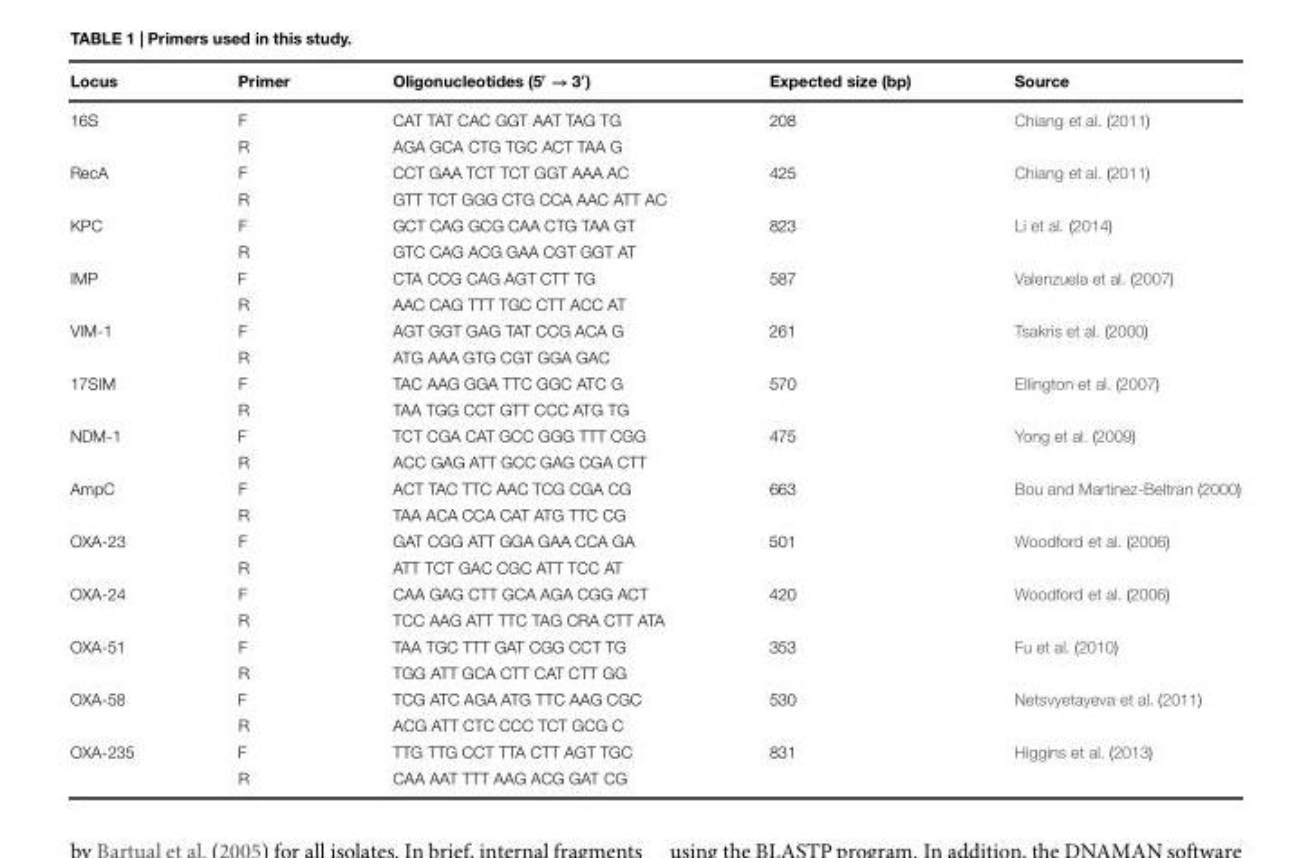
<table><thead><tr><td>Locus</td><td>Primer</td><td>Oligonucleotides (5′ → 3′)</td><td>Expected size (bp)</td><td>Source</td></tr></thead><tbody><tr><td rowspan="2">16S</td><td>F</td><td>CAT TAT CAC GGT AAT TAG TG</td><td>208</td><td>Chiang et al. (2011)</td></tr><tr><td>R</td><td>AGA GCA CTG TGC ACT TAA G</td><td></td><td></td></tr><tr><td rowspan="2">RecA</td><td>F</td><td>CCT GAA TCT TCT GGT AAA AC</td><td>425</td><td>Chiang et al. (2011)</td></tr><tr><td>R</td><td>GTT TCT GGG CTG CCA AAC ATT AC</td><td></td><td></td></tr><tr><td rowspan="2">KPC</td><td>F</td><td>GCT CAG GCG CAA CTG TAA GT</td><td>823</td><td>Li et al. (2014)</td></tr><tr><td>R</td><td>GTC CAG ACG GAA CGT GGT AT</td><td></td><td></td></tr><tr><td rowspan="2">IMP</td><td>F</td><td>CTA CCG CAG AGT CTT TG</td><td>587</td><td>Valenzuela et al. (2007)</td></tr><tr><td>R</td><td>AAC CAG TTT TGC CTT ACC AT</td><td></td><td></td></tr><tr><td rowspan="2">VIM-1</td><td>F</td><td>AGT GGT GAG TAT CCG ACA G</td><td>261</td><td>Tsakris et al. (2000)</td></tr><tr><td>R</td><td>ATG AAA GTG CGT GGA GAC</td><td></td><td></td></tr><tr><td rowspan="2">17SIM</td><td>F</td><td>TAC AAG GGA TTC GGC ATC G</td><td>570</td><td>Ellington et al. (2007)</td></tr><tr><td>R</td><td>TAA TGG CCT GTT CCC ATG TG</td><td></td><td></td></tr><tr><td rowspan="2">NDM-1</td><td>F</td><td>TCT CGA CAT GCC GGG TTT CGG</td><td>475</td><td>Yong et al. (2009)</td></tr><tr><td>R</td><td>ACC GAG ATT GCC GAG CGA CTT</td><td></td><td></td></tr><tr><td rowspan="2">AmpC</td><td>F</td><td>ACT TAC TTC AAC TCG CGA CG</td><td>663</td><td>Bou and Martinez-Beltran (2000)</td></tr><tr><td>R</td><td>TAA ACA CCA CAT ATG TTC CG</td><td></td><td></td></tr><tr><td rowspan="2">OXA-23</td><td>F</td><td>GAT CGG ATT GGA GAA CCA GA</td><td>501</td><td>Woodford et al. (2006)</td></tr><tr><td>R</td><td>ATT TCT GAC CGC ATT TCC AT</td><td></td><td></td></tr><tr><td rowspan="2">OXA-24</td><td>F</td><td>CAA GAG CTT GCA AGA CGG ACT</td><td>420</td><td>Woodford et al. (2006)</td></tr><tr><td>R</td><td>TCC AAG ATT TTC TAG CRA CTT ATA</td><td></td><td></td></tr><tr><td rowspan="2">OXA-51</td><td>F</td><td>TAA TGC TTT GAT CGG CCT TG</td><td>353</td><td>Fu et al. (2010)</td></tr><tr><td>R</td><td>TGG ATT GCA CTT CAT CTT GG</td><td></td><td></td></tr><tr><td rowspan="2">OXA-58</td><td>F</td><td>TCG ATC AGA ATG TTC AAG CGC</td><td>530</td><td>Netsvyetayeva et al. (2011)</td></tr><tr><td>R</td><td>ACG ATT CTC CCC TCT GCG C</td><td></td><td></td></tr><tr><td rowspan="2">OXA-235</td><td>F</td><td>TTG TTG CCT TTA CTT AGT TGC</td><td>831</td><td>Higgins et al. (2013)</td></tr><tr><td>R</td><td>CAA AAT TTT AAG ACG GAT CG</td><td></td><td></td></tr></tbody></table>